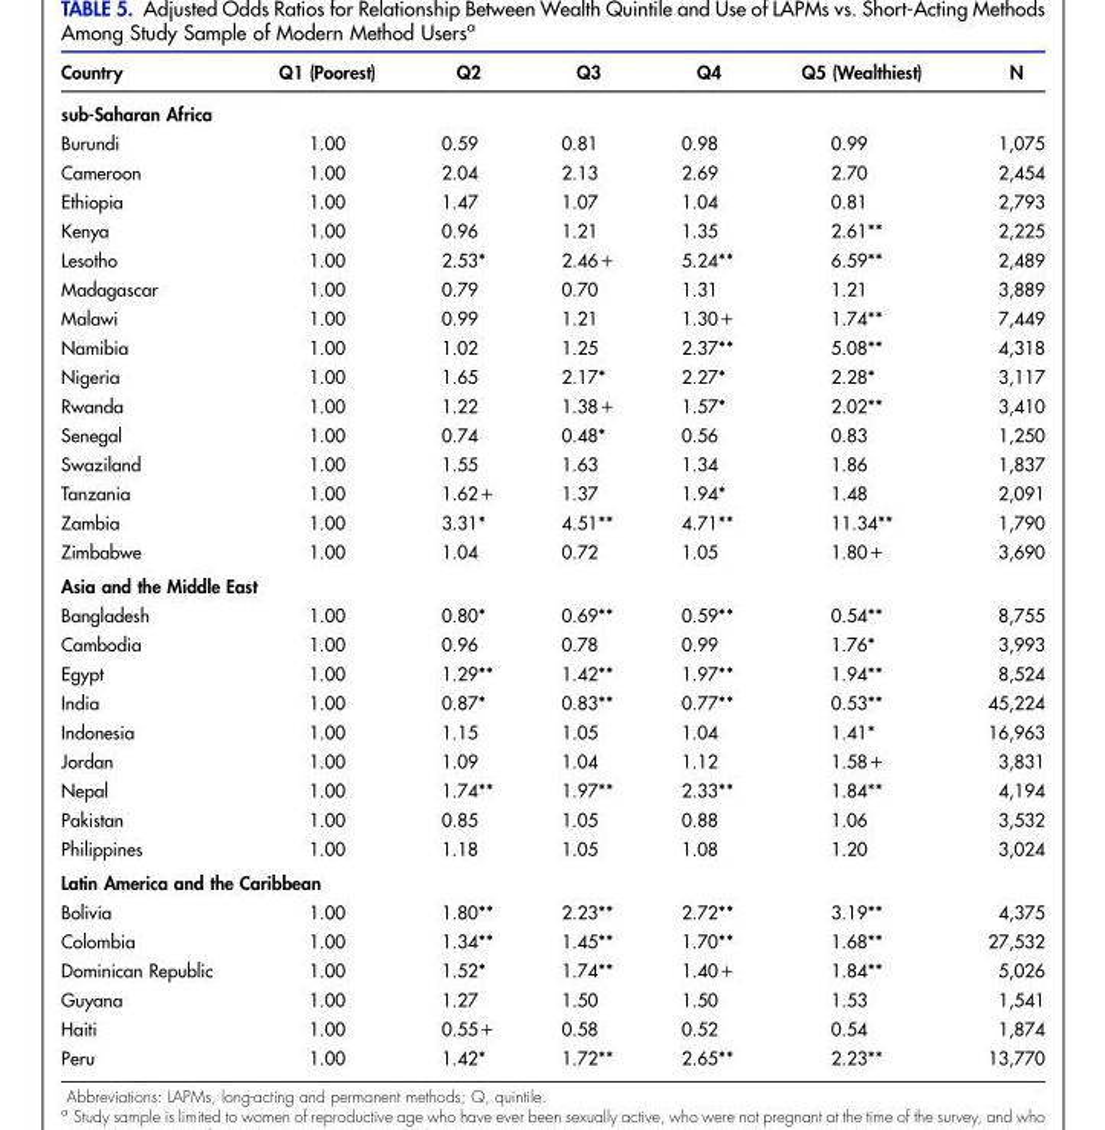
<table><thead><tr><td>Country</td><td>Q1 (Poorest)</td><td>Q2</td><td>Q3</td><td>Q4</td><td>Q5 (Wealthiest)</td><td>N</td></tr></thead><tbody><tr><td colspan="7">sub-Saharan Africa</td></tr><tr><td>Burundi</td><td>1.00</td><td>0.59</td><td>0.81</td><td>0.98</td><td>0.99</td><td>1,075</td></tr><tr><td>Cameroon</td><td>1.00</td><td>2.04</td><td>2.13</td><td>2.69</td><td>2.70</td><td>2,454</td></tr><tr><td>Ethiopia</td><td>1.00</td><td>1.47</td><td>1.07</td><td>1.04</td><td>0.81</td><td>2,793</td></tr><tr><td>Kenya</td><td>1.00</td><td>0.96</td><td>1.21</td><td>1.35</td><td>2.61**</td><td>2,225</td></tr><tr><td>Lesotho</td><td>1.00</td><td>2.53*</td><td>2.46+</td><td>5.24**</td><td>6.59**</td><td>2,489</td></tr><tr><td>Madagascar</td><td>1.00</td><td>0.79</td><td>0.70</td><td>1.31</td><td>1.21</td><td>3,889</td></tr><tr><td>Malawi</td><td>1.00</td><td>0.99</td><td>1.21</td><td>1.30+</td><td>1.74**</td><td>7,449</td></tr><tr><td>Namibia</td><td>1.00</td><td>1.02</td><td>1.25</td><td>2.37**</td><td>5.08**</td><td>4,318</td></tr><tr><td>Nigeria</td><td>1.00</td><td>1.65</td><td>2.17*</td><td>2.27*</td><td>2.28*</td><td>3,117</td></tr><tr><td>Rwanda</td><td>1.00</td><td>1.22</td><td>1.38+</td><td>1.57*</td><td>2.02**</td><td>3,410</td></tr><tr><td>Senegal</td><td>1.00</td><td>0.74</td><td>0.48*</td><td>0.56</td><td>0.83</td><td>1,250</td></tr><tr><td>Swaziland</td><td>1.00</td><td>1.55</td><td>1.63</td><td>1.34</td><td>1.86</td><td>1,837</td></tr><tr><td>Tanzania</td><td>1.00</td><td>1.62+</td><td>1.37</td><td>1.94*</td><td>1.48</td><td>2,091</td></tr><tr><td>Zambia</td><td>1.00</td><td>3.31*</td><td>4.51**</td><td>4.71**</td><td>11.34**</td><td>1,790</td></tr><tr><td>Zimbabwe</td><td>1.00</td><td>1.04</td><td>0.72</td><td>1.05</td><td>1.80+</td><td>3,690</td></tr><tr><td colspan="7">Asia and the Middle East</td></tr><tr><td>Bangladesh</td><td>1.00</td><td>0.80*</td><td>0.69**</td><td>0.59**</td><td>0.54**</td><td>8,755</td></tr><tr><td>Cambodia</td><td>1.00</td><td>0.96</td><td>0.78</td><td>0.99</td><td>1.76*</td><td>3,993</td></tr><tr><td>Egypt</td><td>1.00</td><td>1.29**</td><td>1.42**</td><td>1.97**</td><td>1.94**</td><td>8,524</td></tr><tr><td>India</td><td>1.00</td><td>0.87*</td><td>0.83**</td><td>0.77**</td><td>0.53**</td><td>45,224</td></tr><tr><td>Indonesia</td><td>1.00</td><td>1.15</td><td>1.05</td><td>1.04</td><td>1.41*</td><td>16,963</td></tr><tr><td>Jordan</td><td>1.00</td><td>1.09</td><td>1.04</td><td>1.12</td><td>1.58+</td><td>3,831</td></tr><tr><td>Nepal</td><td>1.00</td><td>1.74**</td><td>1.97**</td><td>2.33**</td><td>1.84**</td><td>4,194</td></tr><tr><td>Pakistan</td><td>1.00</td><td>0.85</td><td>1.05</td><td>0.88</td><td>1.06</td><td>3,532</td></tr><tr><td>Philippines</td><td>1.00</td><td>1.18</td><td>1.05</td><td>1.08</td><td>1.20</td><td>3,024</td></tr><tr><td colspan="7">Latin America and the Caribbean</td></tr><tr><td>Bolivia</td><td>1.00</td><td>1.80**</td><td>2.23**</td><td>2.72**</td><td>3.19**</td><td>4,375</td></tr><tr><td>Colombia</td><td>1.00</td><td>1.34**</td><td>1.45**</td><td>1.70**</td><td>1.68**</td><td>27,532</td></tr><tr><td>Dominican Republic</td><td>1.00</td><td>1.52*</td><td>1.74**</td><td>1.40+</td><td>1.84**</td><td>5,026</td></tr><tr><td>Guyana</td><td>1.00</td><td>1.27</td><td>1.50</td><td>1.50</td><td>1.53</td><td>1,541</td></tr><tr><td>Haiti</td><td>1.00</td><td>0.55+</td><td>0.58</td><td>0.52</td><td>0.54</td><td>1,874</td></tr><tr><td>Peru</td><td>1.00</td><td>1.42*</td><td>1.72**</td><td>2.65**</td><td>2.23**</td><td>13,770</td></tr></tbody></table>